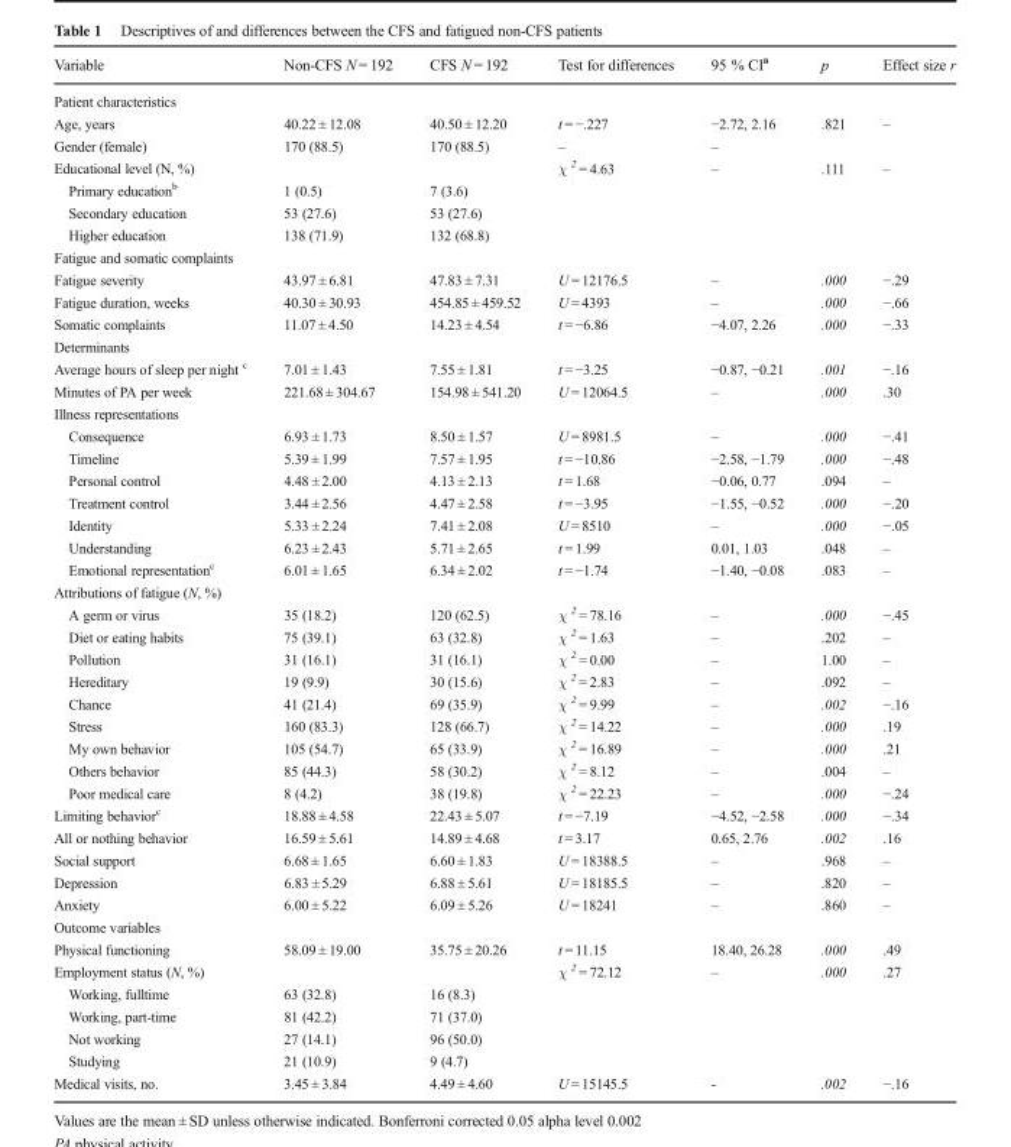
<table><thead><tr><td>Variable</td><td>Non-CFS N = 192</td><td>CFS N = 192</td><td>Test for differences</td><td>95 % CI<sup>a</sup></td><td>p</td><td>Effect size r</td></tr></thead><tbody><tr><td colspan="7">Patient characteristics</td></tr><tr><td>Age, years</td><td>40.22 ± 12.08</td><td>40.50 ± 12.20</td><td>t = −.227</td><td>−2.72, 2.16</td><td>.821</td><td>–</td></tr><tr><td>Gender (female)</td><td>170 (88.5)</td><td>170 (88.5)</td><td>–</td><td>–</td><td></td><td></td></tr><tr><td>Educational level (N, %)</td><td></td><td></td><td>χ <sup>2</sup> = 4.63</td><td>–</td><td>.111</td><td>–</td></tr><tr><td>Primary education<sup>b</sup></td><td>1 (0.5)</td><td>7 (3.6)</td><td></td><td></td><td></td><td></td></tr><tr><td>Secondary education</td><td>53 (27.6)</td><td>53 (27.6)</td><td></td><td></td><td></td><td></td></tr><tr><td>Higher education</td><td>138 (71.9)</td><td>132 (68.8)</td><td></td><td></td><td></td><td></td></tr><tr><td colspan="7">Fatigue and somatic complaints</td></tr><tr><td>Fatigue severity</td><td>43.97 ± 6.81</td><td>47.83 ± 7.31</td><td>U = 12176.5</td><td>–</td><td>.000</td><td>−.29</td></tr><tr><td>Fatigue duration, weeks</td><td>40.30 ± 30.93</td><td>454.85 ± 459.52</td><td>U = 4393</td><td>–</td><td>.000</td><td>−.66</td></tr><tr><td>Somatic complaints</td><td>11.07 ± 4.50</td><td>14.23 ± 4.54</td><td>t = −6.86</td><td>−4.07, 2.26</td><td>.000</td><td>−.33</td></tr><tr><td colspan="7">Determinants</td></tr><tr><td>Average hours of sleep per night <sup>c</sup></td><td>7.01 ± 1.43</td><td>7.55 ± 1.81</td><td>t = −3.25</td><td>−0.87, −0.21</td><td>.001</td><td>−.16</td></tr><tr><td>Minutes of PA per week</td><td>221.68 ± 304.67</td><td>154.98 ± 541.20</td><td>U = 12064.5</td><td>–</td><td>.000</td><td>.30</td></tr><tr><td colspan="7">Illness representations</td></tr><tr><td>Consequence</td><td>6.93 ± 1.73</td><td>8.50 ± 1.57</td><td>U = 8981.5</td><td>–</td><td>.000</td><td>−.41</td></tr><tr><td>Timeline</td><td>5.39 ± 1.99</td><td>7.57 ± 1.95</td><td>t = −10.86</td><td>−2.58, −1.79</td><td>.000</td><td>−.48</td></tr><tr><td>Personal control</td><td>4.48 ± 2.00</td><td>4.13 ± 2.13</td><td>t = 1.68</td><td>−0.06, 0.77</td><td>.094</td><td>–</td></tr><tr><td>Treatment control</td><td>3.44 ± 2.56</td><td>4.47 ± 2.58</td><td>t = −3.95</td><td>−1.55, −0.52</td><td>.000</td><td>−.20</td></tr><tr><td>Identity</td><td>5.33 ± 2.24</td><td>7.41 ± 2.08</td><td>U = 8510</td><td>–</td><td>.000</td><td>−.05</td></tr><tr><td>Understanding</td><td>6.23 ± 2.43</td><td>5.71 ± 2.65</td><td>t = 1.99</td><td>0.01, 1.03</td><td>.048</td><td>–</td></tr><tr><td>Emotional representation<sup>c</sup></td><td>6.01 ± 1.65</td><td>6.34 ± 2.02</td><td>t = −1.74</td><td>−1.40, −0.08</td><td>.083</td><td>–</td></tr><tr><td colspan="7">Attributions of fatigue (N, %)</td></tr><tr><td>A germ or virus</td><td>35 (18.2)</td><td>120 (62.5)</td><td>χ <sup>2</sup> = 78.16</td><td>–</td><td>.000</td><td>−.45</td></tr><tr><td>Diet or eating habits</td><td>75 (39.1)</td><td>63 (32.8)</td><td>χ <sup>2</sup> = 1.63</td><td>–</td><td>.202</td><td>–</td></tr><tr><td>Pollution</td><td>31 (16.1)</td><td>31 (16.1)</td><td>χ <sup>2</sup> = 0.00</td><td>–</td><td>1.00</td><td>–</td></tr><tr><td>Hereditary</td><td>19 (9.9)</td><td>30 (15.6)</td><td>χ <sup>2</sup> = 2.83</td><td>–</td><td>.092</td><td>–</td></tr><tr><td>Chance</td><td>41 (21.4)</td><td>69 (35.9)</td><td>χ <sup>2</sup> = 9.99</td><td>–</td><td>.002</td><td>−.16</td></tr><tr><td>Stress</td><td>160 (83.3)</td><td>128 (66.7)</td><td>χ <sup>2</sup> = 14.22</td><td>–</td><td>.000</td><td>.19</td></tr><tr><td>My own behavior</td><td>105 (54.7)</td><td>65 (33.9)</td><td>χ <sup>2</sup> = 16.89</td><td>–</td><td>.000</td><td>.21</td></tr><tr><td>Others behavior</td><td>85 (44.3)</td><td>58 (30.2)</td><td>χ <sup>2</sup> = 8.12</td><td>–</td><td>.004</td><td>–</td></tr><tr><td>Poor medical care</td><td>8 (4.2)</td><td>38 (19.8)</td><td>χ <sup>2</sup> = 22.23</td><td>–</td><td>.000</td><td>−.24</td></tr><tr><td>Limiting behavior<sup>c</sup></td><td>18.88 ± 4.58</td><td>22.43 ± 5.07</td><td>t = −7.19</td><td>−4.52, −2.58</td><td>.000</td><td>−.34</td></tr><tr><td>All or nothing behavior</td><td>16.59 ± 5.61</td><td>14.89 ± 4.68</td><td>t = 3.17</td><td>0.65, 2.76</td><td>.002</td><td>.16</td></tr><tr><td>Social support</td><td>6.68 ± 1.65</td><td>6.60 ± 1.83</td><td>U = 18388.5</td><td>–</td><td>.968</td><td>–</td></tr><tr><td>Depression</td><td>6.83 ± 5.29</td><td>6.88 ± 5.61</td><td>U = 18185.5</td><td>–</td><td>.820</td><td>–</td></tr><tr><td>Anxiety</td><td>6.00 ± 5.22</td><td>6.09 ± 5.26</td><td>U = 18241</td><td>–</td><td>.860</td><td>–</td></tr><tr><td colspan="7">Outcome variables</td></tr><tr><td>Physical functioning</td><td>58.09 ± 19.00</td><td>35.75 ± 20.26</td><td>t = 11.15</td><td>18.40, 26.28</td><td>.000</td><td>.49</td></tr><tr><td>Employment status (N, %)</td><td></td><td></td><td>χ <sup>2</sup> = 72.12</td><td>–</td><td>.000</td><td>.27</td></tr><tr><td>Working, fulltime</td><td>63 (32.8)</td><td>16 (8.3)</td><td></td><td></td><td></td><td></td></tr><tr><td>Working, part-time</td><td>81 (42.2)</td><td>71 (37.0)</td><td></td><td></td><td></td><td></td></tr><tr><td>Not working</td><td>27 (14.1)</td><td>96 (50.0)</td><td></td><td></td><td></td><td></td></tr><tr><td>Studying</td><td>21 (10.9)</td><td>9 (4.7)</td><td></td><td></td><td></td><td></td></tr><tr><td>Medical visits, no.</td><td>3.45 ± 3.84</td><td>4.49 ± 4.60</td><td>U = 15145.5</td><td>-</td><td>.002</td><td>−.16</td></tr></tbody></table>